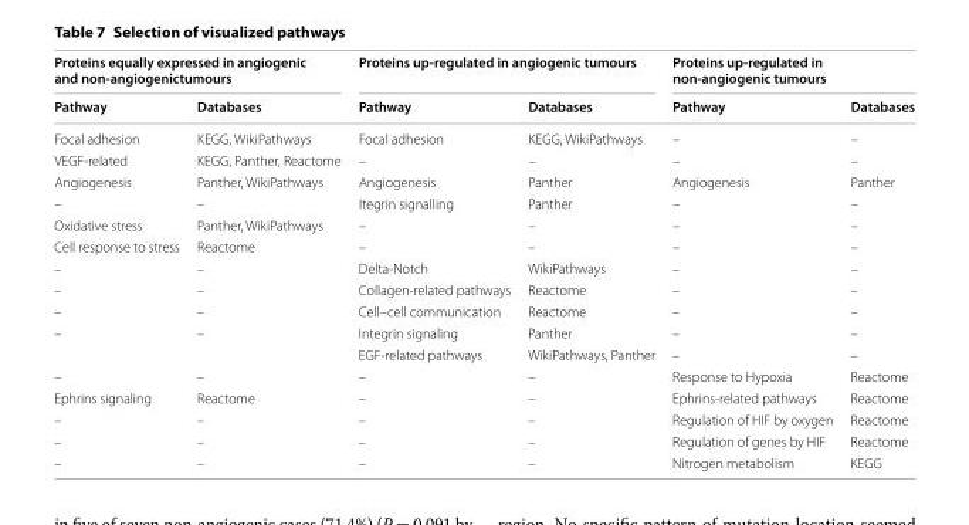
<table><thead><tr><td colspan="2">Proteins equally expressed in angiogenic and non-angiogenictumours</td><td colspan="2">Proteins up-regulated in angiogenic tumours</td><td colspan="2">Proteins up-regulated in non-angiogenic tumours</td></tr><tr><td>Pathway</td><td>Databases</td><td>Pathway</td><td>Databases</td><td>Pathway</td><td>Databases</td></tr></thead><tbody><tr><td>Focal adhesion</td><td>KEGG, WikiPathways</td><td>Focal adhesion</td><td>KEGG, WikiPathways</td><td>–</td><td>–</td></tr><tr><td>VEGF‑related</td><td>KEGG, Panther, Reactome</td><td>–</td><td>–</td><td>–</td><td>–</td></tr><tr><td>Angiogenesis</td><td>Panther, WikiPathways</td><td>Angiogenesis</td><td>Panther</td><td>Angiogenesis</td><td>Panther</td></tr><tr><td>–</td><td>–</td><td>Itegrin signalling</td><td>Panther</td><td>–</td><td>–</td></tr><tr><td>Oxidative stress</td><td>Panther, WikiPathways</td><td>–</td><td>–</td><td>–</td><td>–</td></tr><tr><td>Cell response to stress</td><td>Reactome</td><td>–</td><td>–</td><td>–</td><td>–</td></tr><tr><td>–</td><td>–</td><td>Delta‑Notch</td><td>WikiPathways</td><td>–</td><td>–</td></tr><tr><td>–</td><td>–</td><td>Collagen‑related pathways</td><td>Reactome</td><td>–</td><td>–</td></tr><tr><td>–</td><td>–</td><td>Cell–cell communication</td><td>Reactome</td><td>–</td><td>–</td></tr><tr><td rowspan="2">–</td><td>–</td><td>Integrin signaling</td><td>Panther</td><td>–</td><td>–</td></tr><tr><td></td><td>EGF‑related pathways</td><td>WikiPathways, Panther</td><td>–</td><td>–</td></tr><tr><td>–</td><td>–</td><td>–</td><td>–</td><td>Response to Hypoxia</td><td>Reactome</td></tr><tr><td>Ephrins signaling</td><td>Reactome</td><td>–</td><td>–</td><td>Ephrins‑related pathways</td><td>Reactome</td></tr><tr><td>–</td><td>–</td><td>–</td><td>–</td><td>Regulation of HIF by oxygen</td><td>Reactome</td></tr><tr><td>–</td><td>–</td><td>–</td><td>–</td><td>Regulation of genes by HIF</td><td>Reactome</td></tr><tr><td>–</td><td>–</td><td>–</td><td>–</td><td>Nitrogen metabolism</td><td>KEGG</td></tr></tbody></table>